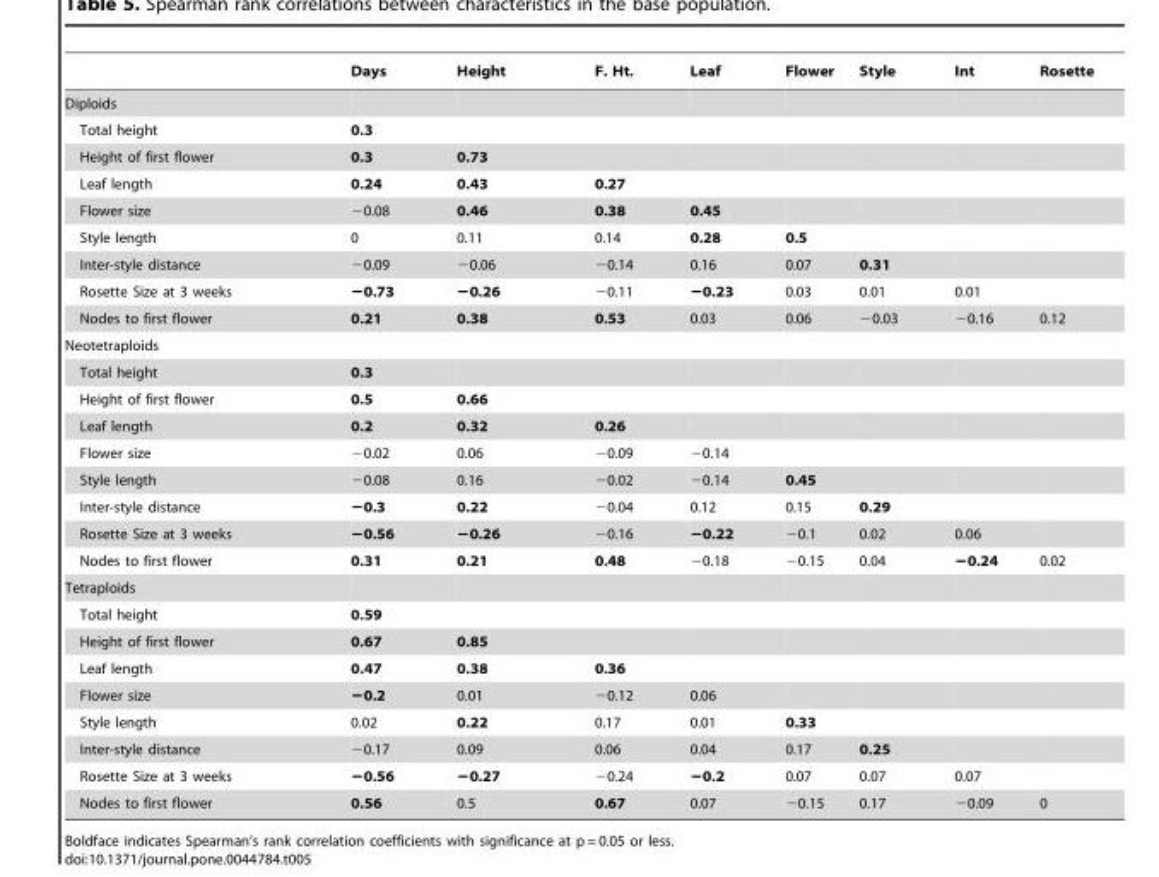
<table><thead><tr><td></td><td>Days</td><td>Height</td><td>F. Ht.</td><td>Leaf</td><td>Flower</td><td>Style</td><td>Int</td><td>Rosette</td></tr></thead><tbody><tr><td colspan="9">Diploids</td></tr><tr><td>Total height</td><td>0.3</td><td></td><td></td><td></td><td></td><td></td><td></td><td></td></tr><tr><td>Height of first flower</td><td>0.3</td><td>0.73</td><td></td><td></td><td></td><td></td><td></td><td></td></tr><tr><td>Leaf length</td><td>0.24</td><td>0.43</td><td>0.27</td><td></td><td></td><td></td><td></td><td></td></tr><tr><td>Flower size</td><td>−0.08</td><td>0.46</td><td>0.38</td><td>0.45</td><td></td><td></td><td></td><td></td></tr><tr><td>Style length</td><td>0</td><td>0.11</td><td>0.14</td><td>0.28</td><td>0.5</td><td></td><td></td><td></td></tr><tr><td>Inter-style distance</td><td>−0.09</td><td>−0.06</td><td>−0.14</td><td>0.16</td><td>0.07</td><td>0.31</td><td></td><td></td></tr><tr><td>Rosette Size at 3 weeks</td><td>−0.73</td><td>−0.26</td><td>−0.11</td><td>−0.23</td><td>0.03</td><td>0.01</td><td>0.01</td><td></td></tr><tr><td>Nodes to first flower</td><td>0.21</td><td>0.38</td><td>0.53</td><td>0.03</td><td>0.06</td><td>−0.03</td><td>−0.16</td><td>0.12</td></tr><tr><td colspan="9">Neotetraploids</td></tr><tr><td>Total height</td><td>0.3</td><td></td><td></td><td></td><td></td><td></td><td></td><td></td></tr><tr><td>Height of first flower</td><td>0.5</td><td>0.66</td><td></td><td></td><td></td><td></td><td></td><td></td></tr><tr><td>Leaf length</td><td>0.2</td><td>0.32</td><td>0.26</td><td></td><td></td><td></td><td></td><td></td></tr><tr><td>Flower size</td><td>−0.02</td><td>0.06</td><td>−0.09</td><td>−0.14</td><td></td><td></td><td></td><td></td></tr><tr><td>Style length</td><td>−0.08</td><td>0.16</td><td>−0.02</td><td>−0.14</td><td>0.45</td><td></td><td></td><td></td></tr><tr><td>Inter-style distance</td><td>−0.3</td><td>0.22</td><td>−0.04</td><td>0.12</td><td>0.15</td><td>0.29</td><td></td><td></td></tr><tr><td>Rosette Size at 3 weeks</td><td>−0.56</td><td>−0.26</td><td>−0.16</td><td>−0.22</td><td>−0.1</td><td>0.02</td><td>0.06</td><td></td></tr><tr><td>Nodes to first flower</td><td>0.31</td><td>0.21</td><td>0.48</td><td>−0.18</td><td>−0.15</td><td>0.04</td><td>−0.24</td><td>0.02</td></tr><tr><td colspan="9">Tetraploids</td></tr><tr><td>Total height</td><td>0.59</td><td></td><td></td><td></td><td></td><td></td><td></td><td></td></tr><tr><td>Height of first flower</td><td>0.67</td><td>0.85</td><td></td><td></td><td></td><td></td><td></td><td></td></tr><tr><td>Leaf length</td><td>0.47</td><td>0.38</td><td>0.36</td><td></td><td></td><td></td><td></td><td></td></tr><tr><td>Flower size</td><td>−0.2</td><td>0.01</td><td>−0.12</td><td>0.06</td><td></td><td></td><td></td><td></td></tr><tr><td>Style length</td><td>0.02</td><td>0.22</td><td>0.17</td><td>0.01</td><td>0.33</td><td></td><td></td><td></td></tr><tr><td>Inter-style distance</td><td>−0.17</td><td>0.09</td><td>0.06</td><td>0.04</td><td>0.17</td><td>0.25</td><td></td><td></td></tr><tr><td>Rosette Size at 3 weeks</td><td>−0.56</td><td>−0.27</td><td>−0.24</td><td>−0.2</td><td>0.07</td><td>0.07</td><td>0.07</td><td></td></tr><tr><td>Nodes to first flower</td><td>0.56</td><td>0.5</td><td>0.67</td><td>0.07</td><td>−0.15</td><td>0.17</td><td>−0.09</td><td>0</td></tr></tbody></table>